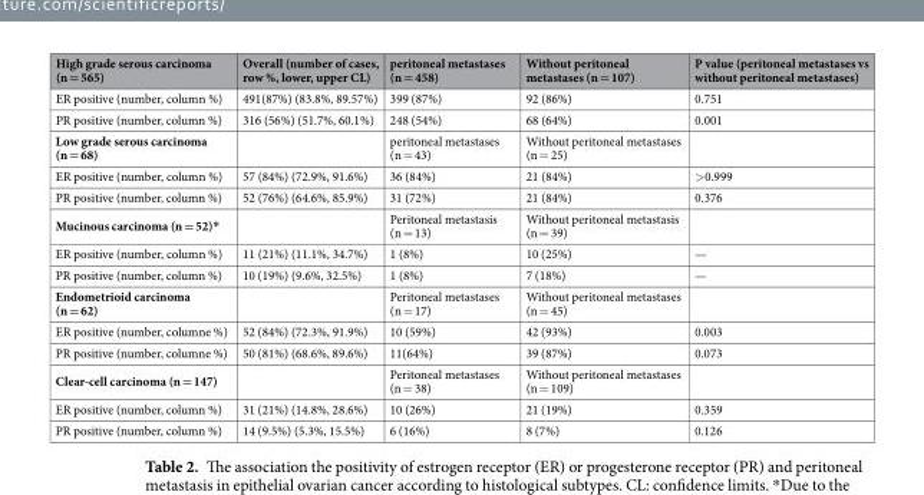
<table><thead><tr><td>High grade serous carcinoma (n = 565)</td><td>Overall (number of cases, row %, lower, upper CL)</td><td>peritoneal metastases (n = 458)</td><td>Without peritoneal metastases (n = 107)</td><td>P value (peritoneal metastases vs without peritoneal metastases)</td></tr></thead><tbody><tr><td>ER positive (number, column %)</td><td>491(87%) (83.8%, 89.57%)</td><td>399 (87%)</td><td>92 (86%)</td><td>0.751</td></tr><tr><td>PR positive (number, column %)</td><td>316 (56%) (51.7%, 60.1%)</td><td>248 (54%)</td><td>68 (64%)</td><td>0.001</td></tr><tr><td>Low grade serous carcinoma (n = 68)</td><td></td><td>peritoneal metastases (n = 43)</td><td>Without peritoneal metastases (n = 25)</td><td></td></tr><tr><td>ER positive (number, column %)</td><td>57 (84%) (72.9%, 91.6%)</td><td>36 (84%)</td><td>21 (84%)</td><td>&gt;0.999</td></tr><tr><td>PR positive (number, column %)</td><td>52 (76%) (64.6%, 85.9%)</td><td>31 (72%)</td><td>21 (84%)</td><td>0.376</td></tr><tr><td>Mucinous carcinoma (n = 52)*</td><td></td><td>Peritoneal metastasis (n = 13)</td><td>Without peritoneal metastasis (n = 39)</td><td></td></tr><tr><td>ER positive (number, column %)</td><td>11 (21%) (11.1%, 34.7%)</td><td>1 (8%)</td><td>10 (25%)</td><td>—</td></tr><tr><td>PR positive (number, column %)</td><td>10 (19%) (9.6%, 32.5%)</td><td>1 (8%)</td><td>7 (18%)</td><td>—</td></tr><tr><td>Endometrioid carcinoma (n = 62)</td><td></td><td>Peritoneal metastases (n = 17)</td><td>Without peritoneal metastases (n = 45)</td><td></td></tr><tr><td>ER positive (number, columne %)</td><td>52 (84%) (72.3%, 91.9%)</td><td>10 (59%)</td><td>42 (93%)</td><td>0.003</td></tr><tr><td>PR positive (number, columne %)</td><td>50 (81%) (68.6%, 89.6%)</td><td>11(64%)</td><td>39 (87%)</td><td>0.073</td></tr><tr><td>Clear-cell carcinoma (n = 147)</td><td></td><td>Peritoneal metastases (n = 38)</td><td>Without peritoneal metastases (n = 109)</td><td></td></tr><tr><td>ER positive (number, column %)</td><td>31 (21%) (14.8%, 28.6%)</td><td>10 (26%)</td><td>21 (19%)</td><td>0.359</td></tr><tr><td>PR positive (number, column %)</td><td>14 (9.5%) (5.3%, 15.5%)</td><td>6 (16%)</td><td>8 (7%)</td><td>0.126</td></tr></tbody></table>